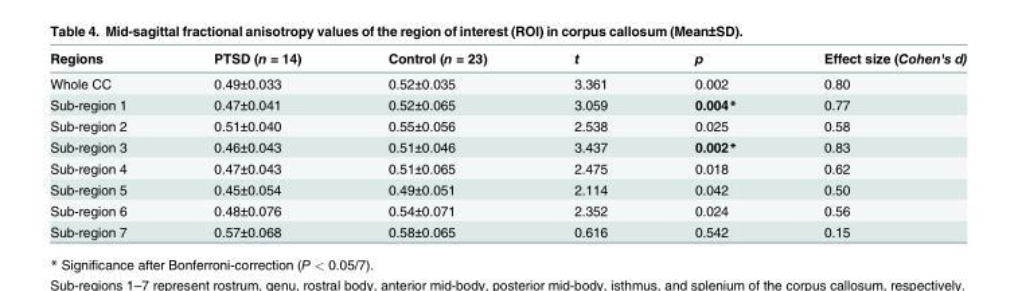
<table><thead><tr><td>Regions</td><td>PTSD (n = 14)</td><td>Control (n = 23)</td><td>t</td><td>p</td><td>Effect size (Cohen&#x27;s d)</td></tr></thead><tbody><tr><td>Whole CC</td><td>0.49±0.033</td><td>0.52±0.035</td><td>3.361</td><td>0.002</td><td>0.80</td></tr><tr><td>Sub-region 1</td><td>0.47±0.041</td><td>0.52±0.065</td><td>3.059</td><td>0.004*</td><td>0.77</td></tr><tr><td>Sub-region 2</td><td>0.51±0.040</td><td>0.55±0.056</td><td>2.538</td><td>0.025</td><td>0.58</td></tr><tr><td>Sub-region 3</td><td>0.46±0.043</td><td>0.51±0.046</td><td>3.437</td><td>0.002*</td><td>0.83</td></tr><tr><td>Sub-region 4</td><td>0.47±0.043</td><td>0.51±0.065</td><td>2.475</td><td>0.018</td><td>0.62</td></tr><tr><td>Sub-region 5</td><td>0.45±0.054</td><td>0.49±0.051</td><td>2.114</td><td>0.042</td><td>0.50</td></tr><tr><td>Sub-region 6</td><td>0.48±0.076</td><td>0.54±0.071</td><td>2.352</td><td>0.024</td><td>0.56</td></tr><tr><td>Sub-region 7</td><td>0.57±0.068</td><td>0.58±0.065</td><td>0.616</td><td>0.542</td><td>0.15</td></tr></tbody></table>